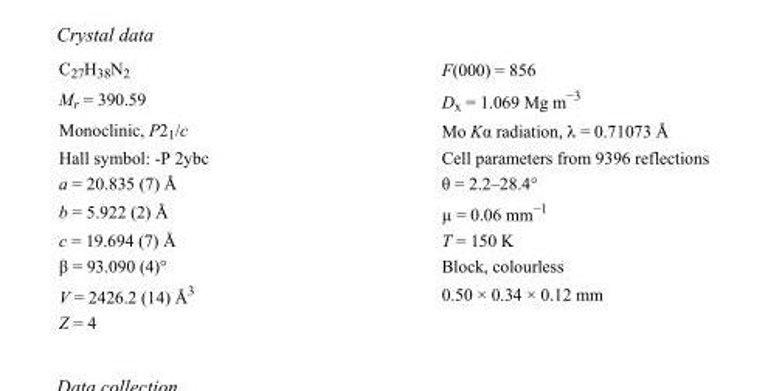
<table><tbody><tr><td>C<sub>27</sub>H<sub>38</sub>N<sub>2</sub></td><td>F(000) = 856</td></tr><tr><td>M<sub>r</sub> = 390.59</td><td>D<sub>x</sub> = 1.069 Mg m<sup>−3</sup></td></tr><tr><td>Monoclinic, P2<sub>1</sub>/c</td><td>Mo Kα radiation, λ = 0.71073 Å</td></tr><tr><td>Hall symbol: -P 2ybc</td><td>Cell parameters from 9396 reflections</td></tr><tr><td>a = 20.835 (7) Å</td><td>θ = 2.2–28.4°</td></tr><tr><td>b = 5.922 (2) Å</td><td>µ = 0.06 mm<sup>−1</sup></td></tr><tr><td>c = 19.694 (7) Å</td><td>T = 150 K</td></tr><tr><td>β = 93.090 (4)°</td><td>Block, colourless</td></tr><tr><td>V = 2426.2 (14) Å<sup>3</sup></td><td>0.50 × 0.34 × 0.12 mm</td></tr><tr><td>Z = 4</td><td></td></tr></tbody></table>